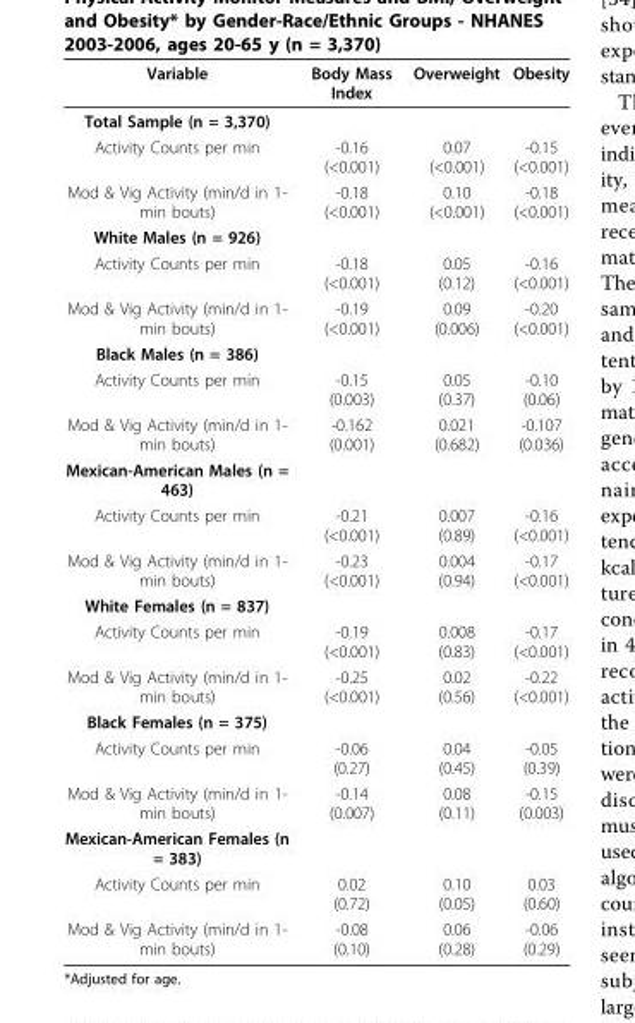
<table><thead><tr><td>Variable</td><td>Body Mass Index</td><td>Overweight</td><td>Obesity</td></tr></thead><tbody><tr><td colspan="4">Total Sample (n = 3,370)</td></tr><tr><td>Activity Counts per min</td><td>-0.16 (&lt;0.001)</td><td>0.07 (&lt;0.001)</td><td>-0.15 (&lt;0.001)</td></tr><tr><td>Mod &amp; Vig Activity (min/d in 1- min bouts)</td><td>-0.18 (&lt;0.001)</td><td>0.10 (&lt;0.001)</td><td>-0.18 (&lt;0.001)</td></tr><tr><td colspan="4">White Males (n = 926)</td></tr><tr><td>Activity Counts per min</td><td>-0.18 (&lt;0.001)</td><td>0.05 (0.12)</td><td>-0.16 (&lt;0.001)</td></tr><tr><td>Mod &amp; Vig Activity (min/d in 1- min bouts)</td><td>-0.19 (&lt;0.001)</td><td>0.09 (0.006)</td><td>-0.20 (&lt;0.001)</td></tr><tr><td colspan="4">Black Males (n = 386)</td></tr><tr><td>Activity Counts per min</td><td>-0.15 (0.003)</td><td>0.05 (0.37)</td><td>-0.10 (0.06)</td></tr><tr><td>Mod &amp; Vig Activity (min/d in 1- min bouts)</td><td>-0.162 (0.001)</td><td>0.021 (0.682)</td><td>-0.107 (0.036)</td></tr><tr><td colspan="4">Mexican-American Males (n = 463)</td></tr><tr><td>Activity Counts per min</td><td>-0.21 (&lt;0.001)</td><td>0.007 (0.89)</td><td>-0.16 (&lt;0.001)</td></tr><tr><td>Mod &amp; Vig Activity (min/d in 1- min bouts)</td><td>-0.23 (&lt;0.001)</td><td>0.004 (0.94)</td><td>-0.17 (&lt;0.001)</td></tr><tr><td colspan="4">White Females (n = 837)</td></tr><tr><td>Activity Counts per min</td><td>-0.19 (&lt;0.001)</td><td>0.008 (0.83)</td><td>-0.17 (&lt;0.001)</td></tr><tr><td>Mod &amp; Vig Activity (min/d in 1- min bouts)</td><td>-0.25 (&lt;0.001)</td><td>0.02 (0.56)</td><td>-0.22 (&lt;0.001)</td></tr><tr><td colspan="4">Black Females (n = 375)</td></tr><tr><td>Activity Counts per min</td><td>-0.06 (0.27)</td><td>0.04 (0.45)</td><td>-0.05 (0.39)</td></tr><tr><td>Mod &amp; Vig Activity (min/d in 1- min bouts)</td><td>-0.14 (0.007)</td><td>0.08 (0.11)</td><td>-0.15 (0.003)</td></tr><tr><td colspan="4">Mexican-American Females (n = 383)</td></tr><tr><td>Activity Counts per min</td><td>0.02 (0.72)</td><td>0.10 (0.05)</td><td>0.03 (0.60)</td></tr><tr><td>Mod &amp; Vig Activity (min/d in 1- min bouts)</td><td>-0.08 (0.10)</td><td>0.06 (0.28)</td><td>-0.06 (0.29)</td></tr></tbody></table>